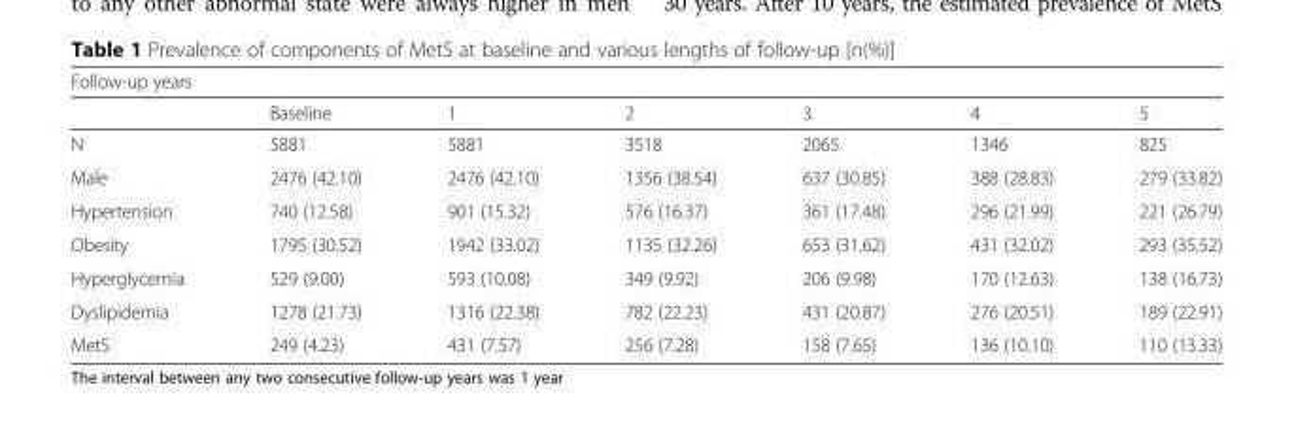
<table><thead><tr><td colspan="7">Follow-up years</td></tr><tr><td></td><td>Baseline</td><td>1</td><td>2</td><td>3</td><td>4</td><td>5</td></tr></thead><tbody><tr><td>N</td><td>5881</td><td>5881</td><td>3518</td><td>2065</td><td>1346</td><td>825</td></tr><tr><td>Male</td><td>2476 (42.10)</td><td>2476 (42.10)</td><td>1356 (38.54)</td><td>637 (30.85)</td><td>388 (28.83)</td><td>279 (33.82)</td></tr><tr><td>Hypertension</td><td>740 (12.58)</td><td>901 (15.32)</td><td>576 (16.37)</td><td>361 (17.48)</td><td>296 (21.99)</td><td>221 (26.79)</td></tr><tr><td>Obesity</td><td>1795 (30.52)</td><td>1942 (33.02)</td><td>1135 (32.26)</td><td>653 (31.62)</td><td>431 (32.02)</td><td>293 (35.52)</td></tr><tr><td>Hyperglycemia</td><td>529 (9.00)</td><td>593 (10.08)</td><td>349 (9.92)</td><td>206 (9.98)</td><td>170 (12.63)</td><td>138 (16.73)</td></tr><tr><td>Dyslipidemia</td><td>1278 (21.73)</td><td>1316 (22.38)</td><td>782 (22.23)</td><td>431 (20.87)</td><td>276 (20.51)</td><td>189 (22.91)</td></tr><tr><td>MetS</td><td>249 (4.23)</td><td>431 (7.57)</td><td>256 (7.28)</td><td>158 (7.65)</td><td>136 (10.10)</td><td>110 (13.33)</td></tr></tbody></table>